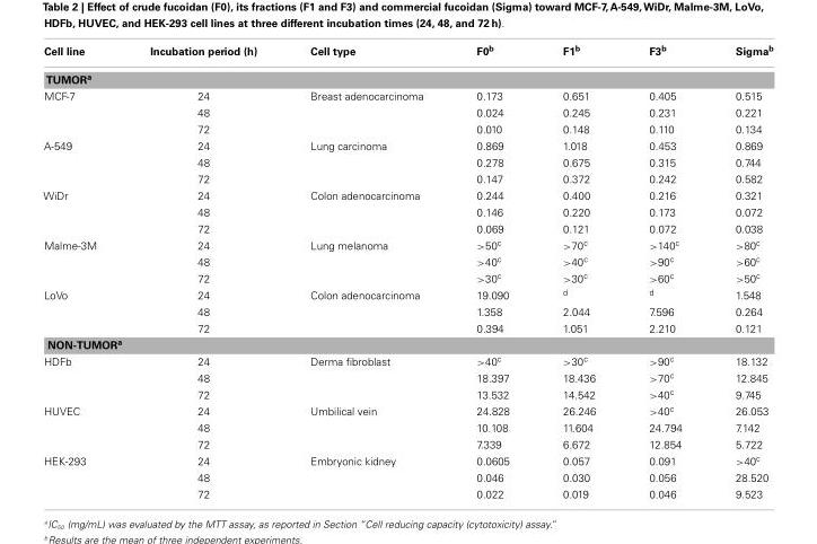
<table><thead><tr><td>Cell line</td><td>Incubation period (h)</td><td>Cell type</td><td>F0<sup>b</sup></td><td>F1<sup>b</sup></td><td>F3<sup>b</sup></td><td>Sigma<sup>b</sup></td></tr></thead><tbody><tr><td colspan="7">TUMOR<sup>a</sup></td></tr><tr><td rowspan="3">MCF-7</td><td>24</td><td>Breast adenocarcinoma</td><td>0.173</td><td>0.651</td><td>0.405</td><td>0.515</td></tr><tr><td>48</td><td></td><td>0.024</td><td>0.245</td><td>0.231</td><td>0.221</td></tr><tr><td>72</td><td></td><td>0.010</td><td>0.148</td><td>0.110</td><td>0.134</td></tr><tr><td rowspan="3">A-549</td><td>24</td><td>Lung carcinoma</td><td>0.869</td><td>1.018</td><td>0.453</td><td>0.869</td></tr><tr><td>48</td><td></td><td>0.278</td><td>0.675</td><td>0.315</td><td>0.744</td></tr><tr><td>72</td><td></td><td>0.147</td><td>0.372</td><td>0.242</td><td>0.582</td></tr><tr><td rowspan="3">WiDr</td><td>24</td><td>Colon adenocarcinoma</td><td>0.244</td><td>0.400</td><td>0.216</td><td>0.321</td></tr><tr><td>48</td><td></td><td>0.146</td><td>0.220</td><td>0.173</td><td>0.072</td></tr><tr><td>72</td><td></td><td>0.069</td><td>0.121</td><td>0.072</td><td>0.038</td></tr><tr><td rowspan="3">Malme-3M</td><td>24</td><td>Lung melanoma</td><td>&gt;50<sup>c</sup></td><td>&gt;70<sup>c</sup></td><td>&gt;140<sup>c</sup></td><td>&gt;80<sup>c</sup></td></tr><tr><td>48</td><td></td><td>&gt;40<sup>c</sup></td><td>&gt;40<sup>c</sup></td><td>&gt;90<sup>c</sup></td><td>&gt;60<sup>c</sup></td></tr><tr><td>72</td><td></td><td>&gt;30<sup>c</sup></td><td>&gt;30<sup>c</sup></td><td>&gt;60<sup>c</sup></td><td>&gt;50<sup>c</sup></td></tr><tr><td rowspan="3">LoVo</td><td>24</td><td>Colon adenocarcinoma</td><td>19.090</td><td><sup>d</sup></td><td><sup>d</sup></td><td>1.548</td></tr><tr><td>48</td><td></td><td>1.358</td><td>2.044</td><td>7.596</td><td>0.264</td></tr><tr><td>72</td><td></td><td>0.394</td><td>1.051</td><td>2.210</td><td>0.121</td></tr><tr><td colspan="7">NON-TUMOR<sup>a</sup></td></tr><tr><td rowspan="3">HDFb</td><td>24</td><td>Derma fibroblast</td><td>&gt;40<sup>c</sup></td><td>&gt;30<sup>c</sup></td><td>&gt;90<sup>c</sup></td><td>18.132</td></tr><tr><td>48</td><td></td><td>18.397</td><td>18.436</td><td>&gt;70<sup>c</sup></td><td>12.845</td></tr><tr><td>72</td><td></td><td>13.532</td><td>14.542</td><td>&gt;40<sup>c</sup></td><td>9.745</td></tr><tr><td rowspan="3">HUVEC</td><td>24</td><td>Umbilical vein</td><td>24.828</td><td>26.246</td><td>&gt;40<sup>c</sup></td><td>26.053</td></tr><tr><td>48</td><td></td><td>10.108</td><td>11.604</td><td>24.794</td><td>7.142</td></tr><tr><td>72</td><td></td><td>7.339</td><td>6.672</td><td>12.854</td><td>5.722</td></tr><tr><td rowspan="3">HEK-293</td><td>24</td><td>Embryonic kidney</td><td>0.0605</td><td>0.057</td><td>0.091</td><td>&gt;40<sup>c</sup></td></tr><tr><td>48</td><td></td><td>0.046</td><td>0.030</td><td>0.056</td><td>28.520</td></tr><tr><td>72</td><td></td><td>0.022</td><td>0.019</td><td>0.046</td><td>9.523</td></tr></tbody></table>